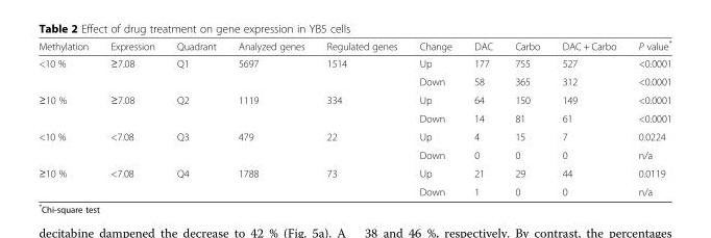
<table><thead><tr><td>Methylation</td><td>Expression</td><td>Quadrant</td><td>Analyzed genes</td><td>Regulated genes</td><td>Change</td><td>DAC</td><td>Carbo</td><td>DAC + Carbo</td><td>P value*</td></tr></thead><tbody><tr><td rowspan="2">&lt;10 %</td><td rowspan="2">≥7.08</td><td rowspan="2">Q1</td><td rowspan="2">5697</td><td rowspan="2">1514</td><td>Up</td><td>177</td><td>755</td><td>527</td><td>&lt;0.0001</td></tr><tr><td>Down</td><td>58</td><td>365</td><td>312</td><td>&lt;0.0001</td></tr><tr><td rowspan="2">≥10 %</td><td rowspan="2">≥7.08</td><td rowspan="2">Q2</td><td rowspan="2">1119</td><td rowspan="2">334</td><td>Up</td><td>64</td><td>150</td><td>149</td><td>&lt;0.0001</td></tr><tr><td>Down</td><td>14</td><td>81</td><td>61</td><td>&lt;0.0001</td></tr><tr><td rowspan="2">&lt;10 %</td><td rowspan="2">&lt;7.08</td><td rowspan="2">Q3</td><td rowspan="2">479</td><td rowspan="2">22</td><td>Up</td><td>4</td><td>15</td><td>7</td><td>0.0224</td></tr><tr><td>Down</td><td>0</td><td>0</td><td>0</td><td>n/a</td></tr><tr><td rowspan="2">≥10 %</td><td rowspan="2">&lt;7.08</td><td rowspan="2">Q4</td><td rowspan="2">1788</td><td rowspan="2">73</td><td>Up</td><td>21</td><td>29</td><td>44</td><td>0.0119</td></tr><tr><td>Down</td><td>1</td><td>0</td><td>0</td><td>n/a</td></tr></tbody></table>